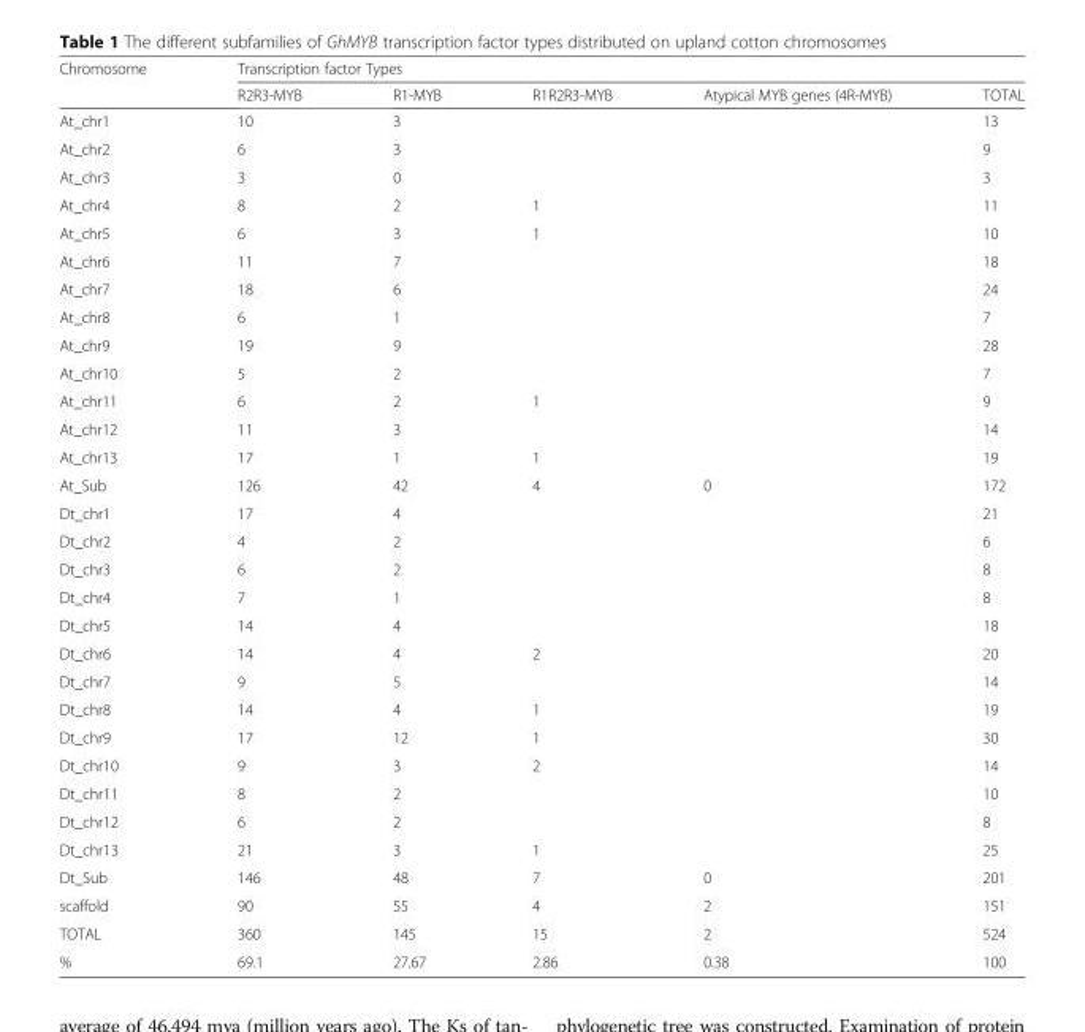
<table><thead><tr><td rowspan="2">Chromosome</td><td colspan="5">Transcription factor Types</td></tr><tr><td>R2R3-MYB</td><td>R1-MYB</td><td>R1R2R3-MYB</td><td>Atypical MYB genes (4R-MYB)</td><td>TOTAL</td></tr></thead><tbody><tr><td>At_chr1</td><td>10</td><td>3</td><td></td><td></td><td>13</td></tr><tr><td>At_chr2</td><td>6</td><td>3</td><td></td><td></td><td>9</td></tr><tr><td>At_chr3</td><td>3</td><td>0</td><td></td><td></td><td>3</td></tr><tr><td>At_chr4</td><td>8</td><td>2</td><td>1</td><td></td><td>11</td></tr><tr><td>At_chr5</td><td>6</td><td>3</td><td>1</td><td></td><td>10</td></tr><tr><td>At_chr6</td><td>11</td><td>7</td><td></td><td></td><td>18</td></tr><tr><td>At_chr7</td><td>18</td><td>6</td><td></td><td></td><td>24</td></tr><tr><td>At_chr8</td><td>6</td><td>1</td><td></td><td></td><td>7</td></tr><tr><td>At_chr9</td><td>19</td><td>9</td><td></td><td></td><td>28</td></tr><tr><td>At_chr10</td><td>5</td><td>2</td><td></td><td></td><td>7</td></tr><tr><td>At_chr11</td><td>6</td><td>2</td><td>1</td><td></td><td>9</td></tr><tr><td>At_chr12</td><td>11</td><td>3</td><td></td><td></td><td>14</td></tr><tr><td>At_chr13</td><td>17</td><td>1</td><td>1</td><td></td><td>19</td></tr><tr><td>At_Sub</td><td>126</td><td>42</td><td>4</td><td>0</td><td>172</td></tr><tr><td>Dt_chr1</td><td>17</td><td>4</td><td></td><td></td><td>21</td></tr><tr><td>Dt_chr2</td><td>4</td><td>2</td><td></td><td></td><td>6</td></tr><tr><td>Dt_chr3</td><td>6</td><td>2</td><td></td><td></td><td>8</td></tr><tr><td>Dt_chr4</td><td>7</td><td>1</td><td></td><td></td><td>8</td></tr><tr><td>Dt_chr5</td><td>14</td><td>4</td><td></td><td></td><td>18</td></tr><tr><td>Dt_chr6</td><td>14</td><td>4</td><td>2</td><td></td><td>20</td></tr><tr><td>Dt_chr7</td><td>9</td><td>5</td><td></td><td></td><td>14</td></tr><tr><td>Dt_chr8</td><td>14</td><td>4</td><td>1</td><td></td><td>19</td></tr><tr><td>Dt_chr9</td><td>17</td><td>12</td><td>1</td><td></td><td>30</td></tr><tr><td>Dt_chr10</td><td>9</td><td>3</td><td>2</td><td></td><td>14</td></tr><tr><td>Dt_chr11</td><td>8</td><td>2</td><td></td><td></td><td>10</td></tr><tr><td>Dt_chr12</td><td>6</td><td>2</td><td></td><td></td><td>8</td></tr><tr><td>Dt_chr13</td><td>21</td><td>3</td><td>1</td><td></td><td>25</td></tr><tr><td>Dt_Sub</td><td>146</td><td>48</td><td>7</td><td>0</td><td>201</td></tr><tr><td>scaffold</td><td>90</td><td>55</td><td>4</td><td>2</td><td>151</td></tr><tr><td>TOTAL</td><td>360</td><td>145</td><td>15</td><td>2</td><td>524</td></tr><tr><td>%</td><td>69.1</td><td>27.67</td><td>2.86</td><td>0.38</td><td>100</td></tr></tbody></table>